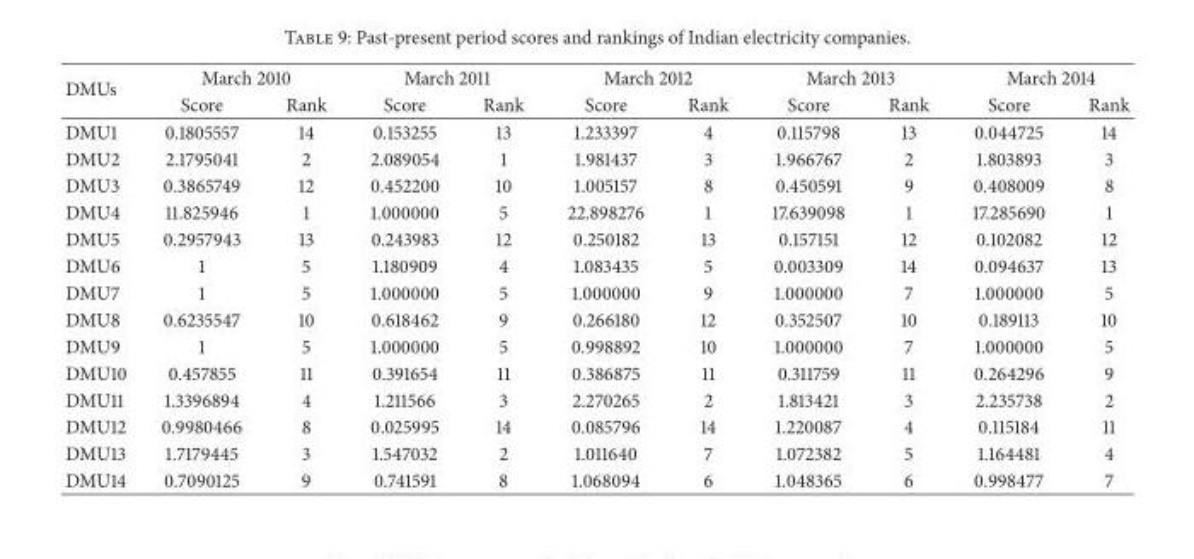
<table><thead><tr><td rowspan="2">DMUs</td><td colspan="2">March 2010</td><td colspan="2">March 2011</td><td colspan="2">March 2012</td><td colspan="2">March 2013</td><td colspan="2">March 2014</td></tr><tr><td>Score</td><td>Rank</td><td>Score</td><td>Rank</td><td>Score</td><td>Rank</td><td>Score</td><td>Rank</td><td>Score</td><td>Rank</td></tr></thead><tbody><tr><td>DMU1</td><td>0.1805557</td><td>14</td><td>0.153255</td><td>13</td><td>1.233397</td><td>4</td><td>0.115798</td><td>13</td><td>0.044725</td><td>14</td></tr><tr><td>DMU2</td><td>2.1795041</td><td>2</td><td>2.089054</td><td>1</td><td>1.981437</td><td>3</td><td>1.966767</td><td>2</td><td>1.803893</td><td>3</td></tr><tr><td>DMU3</td><td>0.3865749</td><td>12</td><td>0.452200</td><td>10</td><td>1.005157</td><td>8</td><td>0.450591</td><td>9</td><td>0.408009</td><td>8</td></tr><tr><td>DMU4</td><td>11.825946</td><td>1</td><td>1.000000</td><td>5</td><td>22.898276</td><td>1</td><td>17.639098</td><td>1</td><td>17.285690</td><td>1</td></tr><tr><td>DMU5</td><td>0.2957943</td><td>13</td><td>0.243983</td><td>12</td><td>0.250182</td><td>13</td><td>0.157151</td><td>12</td><td>0.102082</td><td>12</td></tr><tr><td>DMU6</td><td>1</td><td>5</td><td>1.180909</td><td>4</td><td>1.083435</td><td>5</td><td>0.003309</td><td>14</td><td>0.094637</td><td>13</td></tr><tr><td>DMU7</td><td>1</td><td>5</td><td>1.000000</td><td>5</td><td>1.000000</td><td>9</td><td>1.000000</td><td>7</td><td>1.000000</td><td>5</td></tr><tr><td>DMU8</td><td>0.6235547</td><td>10</td><td>0.618462</td><td>9</td><td>0.266180</td><td>12</td><td>0.352507</td><td>10</td><td>0.189113</td><td>10</td></tr><tr><td>DMU9</td><td>1</td><td>5</td><td>1.000000</td><td>5</td><td>0.998892</td><td>10</td><td>1.000000</td><td>7</td><td>1.000000</td><td>5</td></tr><tr><td>DMU10</td><td>0.457855</td><td>11</td><td>0.391654</td><td>11</td><td>0.386875</td><td>11</td><td>0.311759</td><td>11</td><td>0.264296</td><td>9</td></tr><tr><td>DMU11</td><td>1.3396894</td><td>4</td><td>1.211566</td><td>3</td><td>2.270265</td><td>2</td><td>1.813421</td><td>3</td><td>2.235738</td><td>2</td></tr><tr><td>DMU12</td><td>0.9980466</td><td>8</td><td>0.025995</td><td>14</td><td>0.085796</td><td>14</td><td>1.220087</td><td>4</td><td>0.115184</td><td>11</td></tr><tr><td>DMU13</td><td>1.7179445</td><td>3</td><td>1.547032</td><td>2</td><td>1.011640</td><td>7</td><td>1.072382</td><td>5</td><td>1.164481</td><td>4</td></tr><tr><td>DMU14</td><td>0.7090125</td><td>9</td><td>0.741591</td><td>8</td><td>1.068094</td><td>6</td><td>1.048365</td><td>6</td><td>0.998477</td><td>7</td></tr></tbody></table>